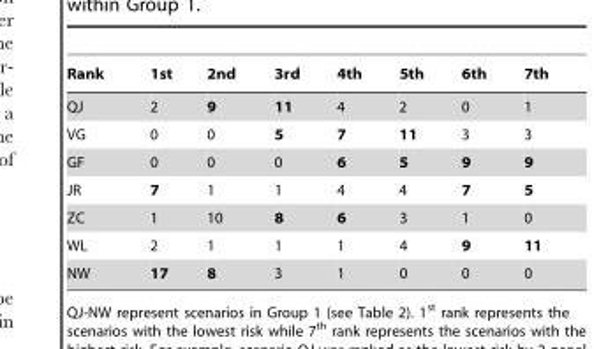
<table><thead><tr><td>Rank</td><td>1st</td><td>2nd</td><td>3rd</td><td>4th</td><td>5th</td><td>6th</td><td>7th</td></tr></thead><tbody><tr><td>QJ</td><td>2</td><td>9</td><td>11</td><td>4</td><td>2</td><td>0</td><td>1</td></tr><tr><td>VG</td><td>0</td><td>0</td><td>5</td><td>7</td><td>11</td><td>3</td><td>3</td></tr><tr><td>GF</td><td>0</td><td>0</td><td>0</td><td>6</td><td>5</td><td>9</td><td>9</td></tr><tr><td>JR</td><td>7</td><td>1</td><td>1</td><td>4</td><td>4</td><td>7</td><td>5</td></tr><tr><td>ZC</td><td>1</td><td>10</td><td>8</td><td>6</td><td>3</td><td>1</td><td>0</td></tr><tr><td>WL</td><td>2</td><td>1</td><td>1</td><td>1</td><td>4</td><td>9</td><td>11</td></tr><tr><td>NW</td><td>17</td><td>8</td><td>3</td><td>1</td><td>0</td><td>0</td><td>0</td></tr></tbody></table>